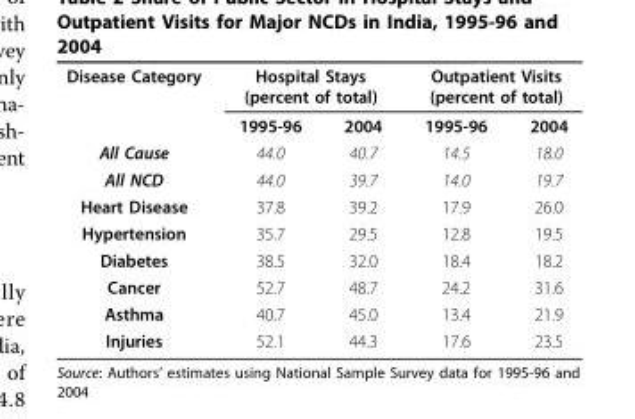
<table><tbody><tr><td rowspan="2">Disease Category</td><td colspan="2">Hospital Stays (percent of total)</td><td colspan="2">Outpatient Visits (percent of total)</td></tr><tr><td>1995-96</td><td>2004</td><td>1995-96</td><td>2004</td></tr><tr><td>All Cause</td><td>44.0</td><td>40.7</td><td>14.5</td><td>18.0</td></tr><tr><td>All NCD</td><td>44.0</td><td>39.7</td><td>14.0</td><td>19.7</td></tr><tr><td>Heart Disease</td><td>37.8</td><td>39.2</td><td>17.9</td><td>26.0</td></tr><tr><td>Hypertension</td><td>35.7</td><td>29.5</td><td>12.8</td><td>19.5</td></tr><tr><td>Diabetes</td><td>38.5</td><td>32.0</td><td>18.4</td><td>18.2</td></tr><tr><td>Cancer</td><td>52.7</td><td>48.7</td><td>24.2</td><td>31.6</td></tr><tr><td>Asthma</td><td>40.7</td><td>45.0</td><td>13.4</td><td>21.9</td></tr><tr><td>Injuries</td><td>52.1</td><td>44.3</td><td>17.6</td><td>23.5</td></tr></tbody></table>